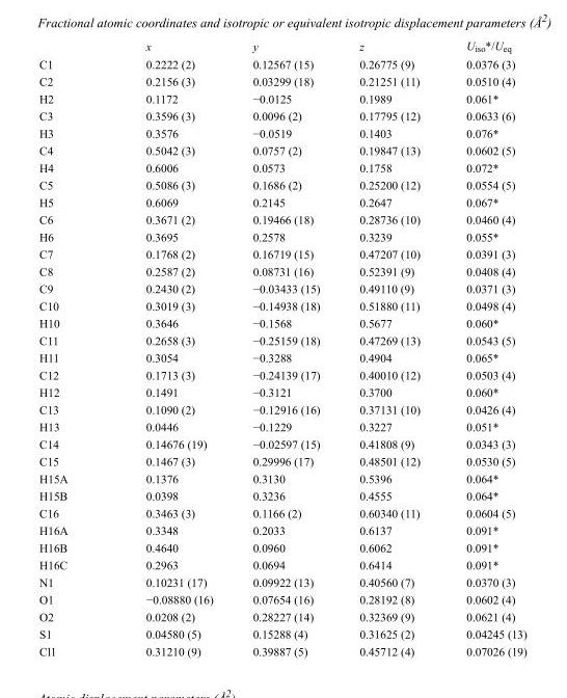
<table><thead><tr><td></td><td>x</td><td>y</td><td>z</td><td>U<sub>iso</sub>*/U<sub>eq</sub></td></tr></thead><tbody><tr><td>C1</td><td>0.2222 (2)</td><td>0.12567 (15)</td><td>0.26775 (9)</td><td>0.0376 (3)</td></tr><tr><td>C2</td><td>0.2156 (3)</td><td>0.03299 (18)</td><td>0.21251 (11)</td><td>0.0510 (4)</td></tr><tr><td>H2</td><td>0.1172</td><td>−0.0125</td><td>0.1989</td><td>0.061*</td></tr><tr><td>C3</td><td>0.3596 (3)</td><td>0.0096 (2)</td><td>0.17795 (12)</td><td>0.0633 (6)</td></tr><tr><td>H3</td><td>0.3576</td><td>−0.0519</td><td>0.1403</td><td>0.076*</td></tr><tr><td>C4</td><td>0.5042 (3)</td><td>0.0757 (2)</td><td>0.19847 (13)</td><td>0.0602 (5)</td></tr><tr><td>H4</td><td>0.6006</td><td>0.0573</td><td>0.1758</td><td>0.072*</td></tr><tr><td>C5</td><td>0.5086 (3)</td><td>0.1686 (2)</td><td>0.25200 (12)</td><td>0.0554 (5)</td></tr><tr><td>H5</td><td>0.6069</td><td>0.2145</td><td>0.2647</td><td>0.067*</td></tr><tr><td>C6</td><td>0.3671 (2)</td><td>0.19466 (18)</td><td>0.28736 (10)</td><td>0.0460 (4)</td></tr><tr><td>H6</td><td>0.3695</td><td>0.2578</td><td>0.3239</td><td>0.055*</td></tr><tr><td>C7</td><td>0.1768 (2)</td><td>0.16719 (15)</td><td>0.47207 (10)</td><td>0.0391 (3)</td></tr><tr><td>C8</td><td>0.2587 (2)</td><td>0.08731 (16)</td><td>0.52391 (9)</td><td>0.0408 (4)</td></tr><tr><td>C9</td><td>0.2430 (2)</td><td>−0.03433 (15)</td><td>0.49110 (9)</td><td>0.0371 (3)</td></tr><tr><td>C10</td><td>0.3019 (3)</td><td>−0.14938 (18)</td><td>0.51880 (11)</td><td>0.0498 (4)</td></tr><tr><td>H10</td><td>0.3646</td><td>−0.1568</td><td>0.5677</td><td>0.060*</td></tr><tr><td>C11</td><td>0.2658 (3)</td><td>−0.25159 (18)</td><td>0.47269 (13)</td><td>0.0543 (5)</td></tr><tr><td>H11</td><td>0.3054</td><td>−0.3288</td><td>0.4904</td><td>0.065*</td></tr><tr><td>C12</td><td>0.1713 (3)</td><td>−0.24139 (17)</td><td>0.40010 (12)</td><td>0.0503 (4)</td></tr><tr><td>H12</td><td>0.1491</td><td>−0.3121</td><td>0.3700</td><td>0.060*</td></tr><tr><td>C13</td><td>0.1090 (2)</td><td>−0.12916 (16)</td><td>0.37131 (10)</td><td>0.0426 (4)</td></tr><tr><td>H13</td><td>0.0446</td><td>−0.1229</td><td>0.3227</td><td>0.051*</td></tr><tr><td>C14</td><td>0.14676 (19)</td><td>−0.02597 (15)</td><td>0.41808 (9)</td><td>0.0343 (3)</td></tr><tr><td>C15</td><td>0.1467 (3)</td><td>0.29996 (17)</td><td>0.48501 (12)</td><td>0.0530 (5)</td></tr><tr><td>H15A</td><td>0.1376</td><td>0.3130</td><td>0.5396</td><td>0.064*</td></tr><tr><td>H15B</td><td>0.0398</td><td>0.3236</td><td>0.4555</td><td>0.064*</td></tr><tr><td>C16</td><td>0.3463 (3)</td><td>0.1166 (2)</td><td>0.60340 (11)</td><td>0.0604 (5)</td></tr><tr><td>H16A</td><td>0.3348</td><td>0.2033</td><td>0.6137</td><td>0.091*</td></tr><tr><td>H16B</td><td>0.4640</td><td>0.0960</td><td>0.6062</td><td>0.091*</td></tr><tr><td>H16C</td><td>0.2963</td><td>0.0694</td><td>0.6414</td><td>0.091*</td></tr><tr><td>N1</td><td>0.10231 (17)</td><td>0.09922 (13)</td><td>0.40560 (7)</td><td>0.0370 (3)</td></tr><tr><td>O1</td><td>−0.08880 (16)</td><td>0.07654 (16)</td><td>0.28192 (8)</td><td>0.0602 (4)</td></tr><tr><td>O2</td><td>0.0208 (2)</td><td>0.28227 (14)</td><td>0.32369 (9)</td><td>0.0621 (4)</td></tr><tr><td>S1</td><td>0.04580 (5)</td><td>0.15288 (4)</td><td>0.31625 (2)</td><td>0.04245 (13)</td></tr><tr><td>Cl1</td><td>0.31210 (9)</td><td>0.39887 (5)</td><td>0.45712 (4)</td><td>0.07026 (19)</td></tr></tbody></table>